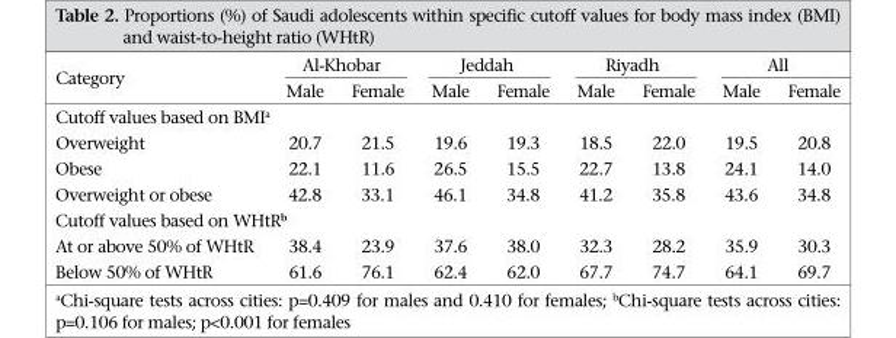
<table><thead><tr><td rowspan="2">Category</td><td colspan="2">Al-Khobar</td><td colspan="2">Jeddah</td><td colspan="2">Riyadh</td><td colspan="2">All</td></tr><tr><td>Male</td><td>Female</td><td>Male</td><td>Female</td><td>Male</td><td>Female</td><td>Male</td><td>Female</td></tr></thead><tbody><tr><td colspan="9">Cutoff values based on BMI<sup>a</sup></td></tr><tr><td>Overweight</td><td>20.7</td><td>21.5</td><td>19.6</td><td>19.3</td><td>18.5</td><td>22.0</td><td>19.5</td><td>20.8</td></tr><tr><td>Obese</td><td>22.1</td><td>11.6</td><td>26.5</td><td>15.5</td><td>22.7</td><td>13.8</td><td>24.1</td><td>14.0</td></tr><tr><td>Overweight or obese</td><td>42.8</td><td>33.1</td><td>46.1</td><td>34.8</td><td>41.2</td><td>35.8</td><td>43.6</td><td>34.8</td></tr><tr><td colspan="9">Cutoff values based on WHtR<sup>b</sup></td></tr><tr><td>At or above 50% of WHtR</td><td>38.4</td><td>23.9</td><td>37.6</td><td>38.0</td><td>32.3</td><td>28.2</td><td>35.9</td><td>30.3</td></tr><tr><td>Below 50% of WHtR</td><td>61.6</td><td>76.1</td><td>62.4</td><td>62.0</td><td>67.7</td><td>74.7</td><td>64.1</td><td>69.7</td></tr></tbody></table>